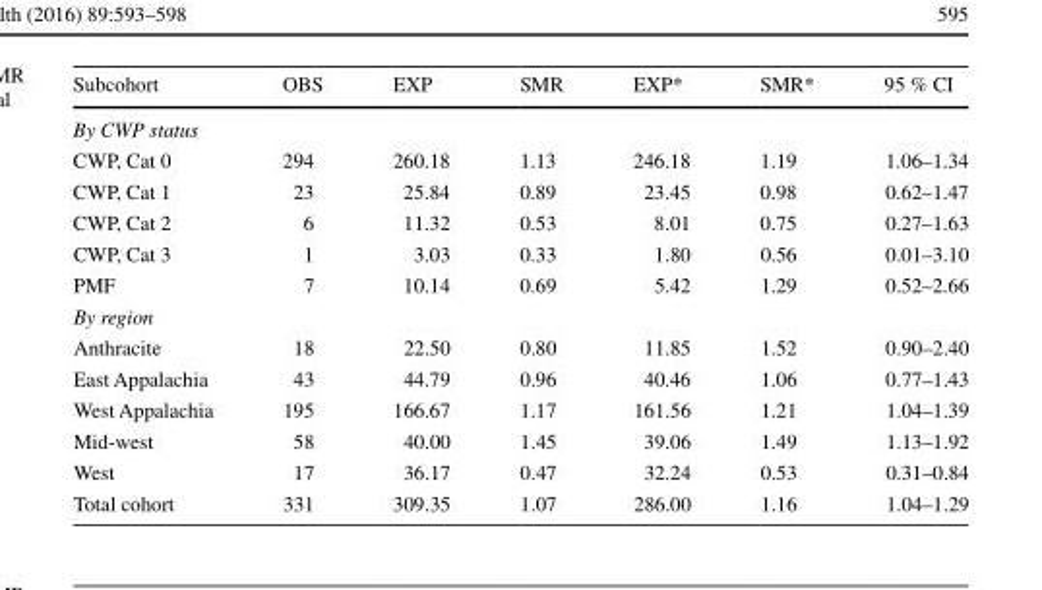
<table><thead><tr><td>Subcohort</td><td>OBS</td><td>EXP</td><td>SMR</td><td>EXP*</td><td>SMR*</td><td>95 % CI</td></tr></thead><tbody><tr><td colspan="7">By CWP status</td></tr><tr><td>CWP, Cat 0</td><td>294</td><td>260.18</td><td>1.13</td><td>246.18</td><td>1.19</td><td>1.06–1.34</td></tr><tr><td>CWP, Cat 1</td><td>23</td><td>25.84</td><td>0.89</td><td>23.45</td><td>0.98</td><td>0.62–1.47</td></tr><tr><td>CWP, Cat 2</td><td>6</td><td>11.32</td><td>0.53</td><td>8.01</td><td>0.75</td><td>0.27–1.63</td></tr><tr><td>CWP, Cat 3</td><td>1</td><td>3.03</td><td>0.33</td><td>1.80</td><td>0.56</td><td>0.01–3.10</td></tr><tr><td>PMF</td><td>7</td><td>10.14</td><td>0.69</td><td>5.42</td><td>1.29</td><td>0.52–2.66</td></tr><tr><td colspan="7">By region</td></tr><tr><td>Anthracite</td><td>18</td><td>22.50</td><td>0.80</td><td>11.85</td><td>1.52</td><td>0.90–2.40</td></tr><tr><td>East Appalachia</td><td>43</td><td>44.79</td><td>0.96</td><td>40.46</td><td>1.06</td><td>0.77–1.43</td></tr><tr><td>West Appalachia</td><td>195</td><td>166.67</td><td>1.17</td><td>161.56</td><td>1.21</td><td>1.04–1.39</td></tr><tr><td>Mid-west</td><td>58</td><td>40.00</td><td>1.45</td><td>39.06</td><td>1.49</td><td>1.13–1.92</td></tr><tr><td>West</td><td>17</td><td>36.17</td><td>0.47</td><td>32.24</td><td>0.53</td><td>0.31–0.84</td></tr><tr><td>Total cohort</td><td>331</td><td>309.35</td><td>1.07</td><td>286.00</td><td>1.16</td><td>1.04–1.29</td></tr></tbody></table>